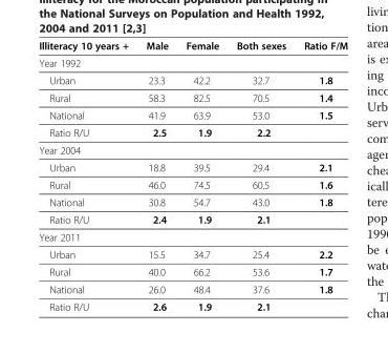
<table><thead><tr><td>Illiteracy 10 years +</td><td>Male</td><td>Female</td><td>Both sexes</td><td>Ratio F/M</td></tr></thead><tbody><tr><td colspan="5">Year 1992</td></tr><tr><td>Urban</td><td>23.3</td><td>42.2</td><td>32.7</td><td>1.8</td></tr><tr><td>Rural</td><td>58.3</td><td>82.5</td><td>70.5</td><td>1.4</td></tr><tr><td>National</td><td>41.9</td><td>63.9</td><td>53.0</td><td>1.5</td></tr><tr><td>Ratio R/U</td><td>2.5</td><td>1.9</td><td>2.2</td><td></td></tr><tr><td colspan="5">Year 2004</td></tr><tr><td>Urban</td><td>18.8</td><td>39.5</td><td>29.4</td><td>2.1</td></tr><tr><td>Rural</td><td>46.0</td><td>74.5</td><td>60.5</td><td>1.6</td></tr><tr><td>National</td><td>30.8</td><td>54.7</td><td>43.0</td><td>1.8</td></tr><tr><td>Ratio R/U</td><td>2.4</td><td>1.9</td><td>2.1</td><td></td></tr><tr><td colspan="5">Year 2011</td></tr><tr><td>Urban</td><td>15.5</td><td>34.7</td><td>25.4</td><td>2.2</td></tr><tr><td>Rural</td><td>40.0</td><td>66.2</td><td>53.6</td><td>1.7</td></tr><tr><td>National</td><td>26.0</td><td>48.4</td><td>37.6</td><td>1.8</td></tr><tr><td>Ratio R/U</td><td>2.6</td><td>1.9</td><td>2.1</td><td></td></tr></tbody></table>